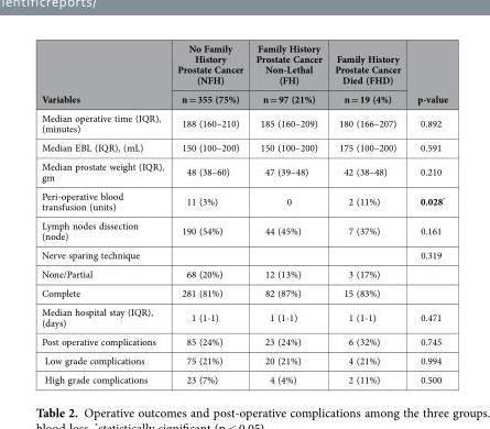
<table><thead><tr><td rowspan="2">Variables</td><td rowspan="2">No Family History Prostate Cancer (NFH) n = 355 (75%)</td><td rowspan="2">Family History Prostate Cancer Non-Lethal (FH) n = 97 (21%)</td><td rowspan="2">Family History Prostate Cancer Died (FHD) n = 19 (4%)</td><td rowspan="2">p-value</td></tr><tr></tr></thead><tbody><tr><td>Median operative time (IQR), (minutes)</td><td>188 (160–210)</td><td>185 (160–209)</td><td>180 (166–207)</td><td>0.892</td></tr><tr><td>Median EBL (IQR), (mL)</td><td>150 (100–200)</td><td>150 (100–200)</td><td>175 (100–200)</td><td>0.591</td></tr><tr><td>Median prostate weight (IQR), gm</td><td>48 (38–60)</td><td>47 (39–48)</td><td>42 (38–48)</td><td>0.210</td></tr><tr><td>Peri-operative blood transfusion (units)</td><td>11 (3%)</td><td>0</td><td>2 (11%)</td><td>0.028*</td></tr><tr><td>Lymph nodes dissection (node)</td><td>190 (54%)</td><td>44 (45%)</td><td>7 (37%)</td><td>0.161</td></tr><tr><td>Nerve sparing technique</td><td></td><td></td><td></td><td>0.319</td></tr><tr><td>None/Partial</td><td>68 (20%)</td><td>12 (13%)</td><td>3 (17%)</td><td></td></tr><tr><td>Complete</td><td>281 (81%)</td><td>82 (87%)</td><td>15 (83%)</td><td></td></tr><tr><td>Median hospital stay (IQR), (days)</td><td>1 (1-1)</td><td>1 (1-1)</td><td>1 (1-1)</td><td>0.471</td></tr><tr><td>Post operative complications</td><td>85 (24%)</td><td>23 (24%)</td><td>6 (32%)</td><td>0.745</td></tr><tr><td>Low grade complications</td><td>75 (21%)</td><td>20 (21%)</td><td>4 (21%)</td><td>0.994</td></tr><tr><td>High grade complications</td><td>23 (7%)</td><td>4 (4%)</td><td>2 (11%)</td><td>0.500</td></tr></tbody></table>